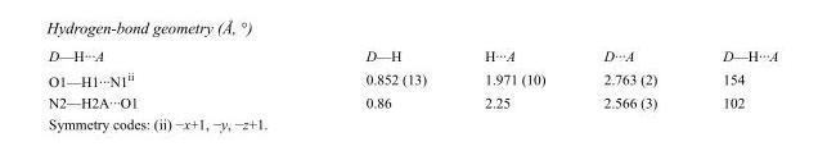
<table><tbody><tr><td>D—H···A</td><td>D—H</td><td>H···A</td><td>D···A</td><td>D—H···A</td></tr><tr><td>O1—H1···N1<sup>ii</sup></td><td>0.852 (13)</td><td>1.971 (10)</td><td>2.763 (2)</td><td>154</td></tr><tr><td>N2—H2A···O1</td><td>0.86</td><td>2.25</td><td>2.566 (3)</td><td>102</td></tr></tbody></table>